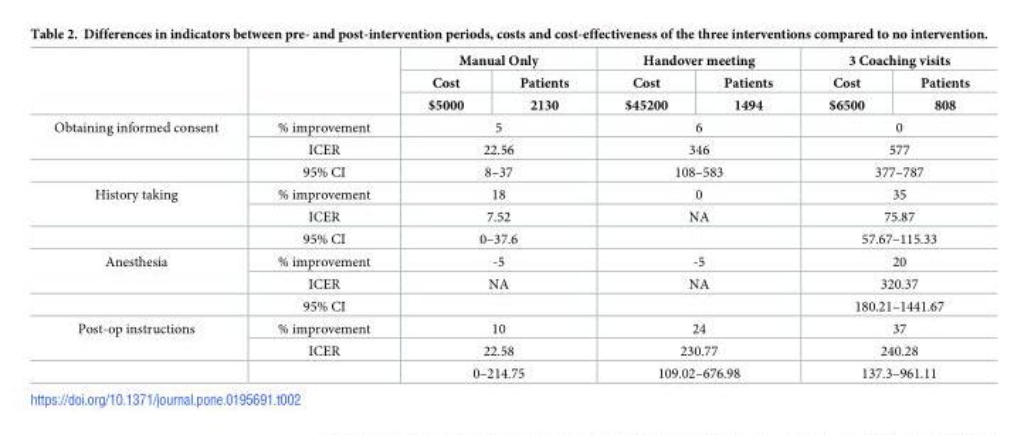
<table><thead><tr><td rowspan="3"></td><td rowspan="3"></td><td colspan="2">Manual Only</td><td colspan="2">Handover meeting</td><td colspan="2">3 Coaching visits</td></tr><tr><td rowspan="2">Cost $5000</td><td rowspan="2">Patients 2130</td><td rowspan="2">Cost $45200</td><td rowspan="2">Patients 1494</td><td rowspan="2">Cost $6500</td><td rowspan="2">Patients 808</td></tr><tr></tr></thead><tbody><tr><td rowspan="3">Obtaining informed consent</td><td>% improvement</td><td colspan="2">5</td><td colspan="2">6</td><td colspan="2">0</td></tr><tr><td>ICER</td><td colspan="2">22.56</td><td colspan="2">346</td><td colspan="2">577</td></tr><tr><td>95% CI</td><td colspan="2">8–37</td><td colspan="2">108–583</td><td colspan="2">377–787</td></tr><tr><td rowspan="3">History taking</td><td>% improvement</td><td colspan="2">18</td><td colspan="2">0</td><td colspan="2">35</td></tr><tr><td>ICER</td><td colspan="2">7.52</td><td colspan="2">NA</td><td colspan="2">75.87</td></tr><tr><td>95% CI</td><td colspan="2">0–37.6</td><td colspan="2"></td><td colspan="2">57.67–115.33</td></tr><tr><td rowspan="3">Anesthesia</td><td>% improvement</td><td colspan="2">-5</td><td colspan="2">-5</td><td colspan="2">20</td></tr><tr><td>ICER</td><td colspan="2">NA</td><td colspan="2">NA</td><td colspan="2">320.37</td></tr><tr><td>95% CI</td><td colspan="2"></td><td colspan="2"></td><td colspan="2">180.21–1441.67</td></tr><tr><td rowspan="3">Post-op instructions</td><td>% improvement</td><td colspan="2">10</td><td colspan="2">24</td><td colspan="2">37</td></tr><tr><td>ICER</td><td colspan="2">22.58</td><td colspan="2">230.77</td><td colspan="2">240.28</td></tr><tr><td></td><td colspan="2">0–214.75</td><td colspan="2">109.02–676.98</td><td colspan="2">137.3–961.11</td></tr></tbody></table>